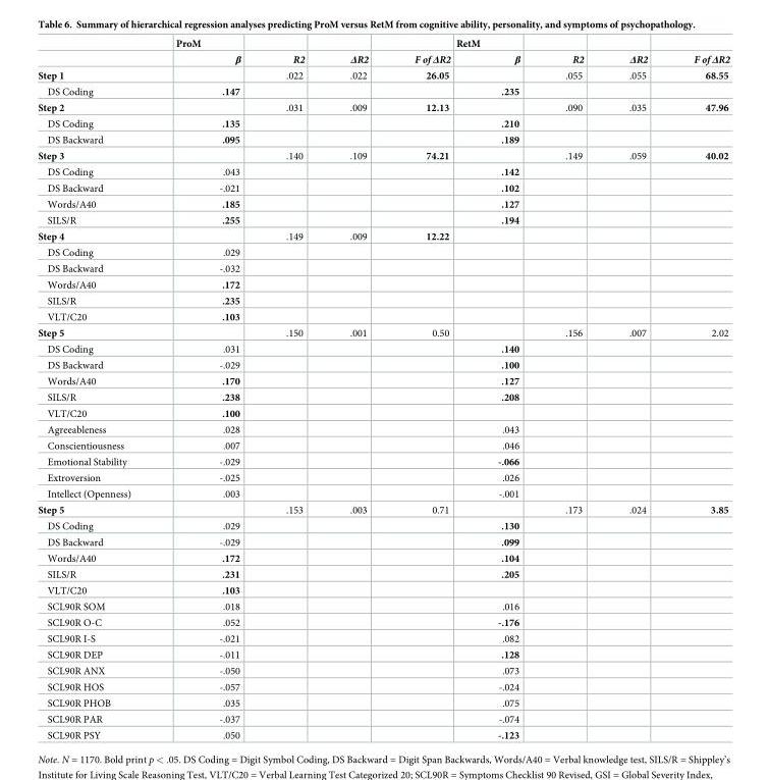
<table><thead><tr><td rowspan="2"></td><td rowspan="2">ProM β</td><td rowspan="2">R2</td><td rowspan="2">ΔR2</td><td rowspan="2">F of ΔR2</td><td rowspan="2">RetM β</td><td rowspan="2">R2</td><td rowspan="2">ΔR2</td><td rowspan="2">F of ΔR2</td></tr><tr></tr></thead><tbody><tr><td>Step 1</td><td></td><td>.022</td><td>.022</td><td>26.05</td><td></td><td>.055</td><td>.055</td><td>68.55</td></tr><tr><td>DS Coding</td><td>.147</td><td></td><td></td><td></td><td>.235</td><td></td><td></td><td></td></tr><tr><td>Step 2</td><td></td><td>.031</td><td>.009</td><td>12.13</td><td></td><td>.090</td><td>.035</td><td>47.96</td></tr><tr><td>DS Coding</td><td>.135</td><td></td><td></td><td></td><td>.210</td><td></td><td></td><td></td></tr><tr><td>DS Backward</td><td>.095</td><td></td><td></td><td></td><td>.189</td><td></td><td></td><td></td></tr><tr><td>Step 3</td><td></td><td>.140</td><td>.109</td><td>74.21</td><td></td><td>.149</td><td>.059</td><td>40.02</td></tr><tr><td>DS Coding</td><td>.043</td><td></td><td></td><td></td><td>.142</td><td></td><td></td><td></td></tr><tr><td>DS Backward</td><td>-.021</td><td></td><td></td><td></td><td>.102</td><td></td><td></td><td></td></tr><tr><td>Words/A40</td><td>.185</td><td></td><td></td><td></td><td>.127</td><td></td><td></td><td></td></tr><tr><td>SILS/R</td><td>.255</td><td></td><td></td><td></td><td>.194</td><td></td><td></td><td></td></tr><tr><td>Step 4</td><td></td><td>.149</td><td>.009</td><td>12.22</td><td></td><td></td><td></td><td></td></tr><tr><td>DS Coding</td><td>.029</td><td></td><td></td><td></td><td></td><td></td><td></td><td></td></tr><tr><td>DS Backward</td><td>-.032</td><td></td><td></td><td></td><td></td><td></td><td></td><td></td></tr><tr><td>Words/A40</td><td>.172</td><td></td><td></td><td></td><td></td><td></td><td></td><td></td></tr><tr><td>SILS/R</td><td>.235</td><td></td><td></td><td></td><td></td><td></td><td></td><td></td></tr><tr><td>VLT/C20</td><td>.103</td><td></td><td></td><td></td><td></td><td></td><td></td><td></td></tr><tr><td>Step 5</td><td></td><td>.150</td><td>.001</td><td>0.50</td><td></td><td>.156</td><td>.007</td><td>2.02</td></tr><tr><td>DS Coding</td><td>.031</td><td></td><td></td><td></td><td>.140</td><td></td><td></td><td></td></tr><tr><td>DS Backward</td><td>-.029</td><td></td><td></td><td></td><td>.100</td><td></td><td></td><td></td></tr><tr><td>Words/A40</td><td>.170</td><td></td><td></td><td></td><td>.127</td><td></td><td></td><td></td></tr><tr><td>SILS/R</td><td>.238</td><td></td><td></td><td></td><td>.208</td><td></td><td></td><td></td></tr><tr><td>VLT/C20</td><td>.100</td><td></td><td></td><td></td><td></td><td></td><td></td><td></td></tr><tr><td>Agreeableness</td><td>.028</td><td></td><td></td><td></td><td>.043</td><td></td><td></td><td></td></tr><tr><td>Conscientiousness</td><td>.007</td><td></td><td></td><td></td><td>.046</td><td></td><td></td><td></td></tr><tr><td>Emotional Stability</td><td>-.029</td><td></td><td></td><td></td><td>-.066</td><td></td><td></td><td></td></tr><tr><td>Extroversion</td><td>-.025</td><td></td><td></td><td></td><td>.026</td><td></td><td></td><td></td></tr><tr><td>Intellect (Openness)</td><td>.003</td><td></td><td></td><td></td><td>-.001</td><td></td><td></td><td></td></tr><tr><td>Step 5</td><td></td><td>.153</td><td>.003</td><td>0.71</td><td></td><td>.173</td><td>.024</td><td>3.85</td></tr><tr><td>DS Coding</td><td>.029</td><td></td><td></td><td></td><td>.130</td><td></td><td></td><td></td></tr><tr><td>DS Backward</td><td>-.029</td><td></td><td></td><td></td><td>.099</td><td></td><td></td><td></td></tr><tr><td>Words/A40</td><td>.172</td><td></td><td></td><td></td><td>.104</td><td></td><td></td><td></td></tr><tr><td>SILS/R</td><td>.231</td><td></td><td></td><td></td><td>.205</td><td></td><td></td><td></td></tr><tr><td>VLT/C20</td><td>.103</td><td></td><td></td><td></td><td></td><td></td><td></td><td></td></tr><tr><td>SCL90R SOM</td><td>.018</td><td></td><td></td><td></td><td>.016</td><td></td><td></td><td></td></tr><tr><td>SCL90R O-C</td><td>.052</td><td></td><td></td><td></td><td>-.176</td><td></td><td></td><td></td></tr><tr><td>SCL90R I-S</td><td>-.021</td><td></td><td></td><td></td><td>.082</td><td></td><td></td><td></td></tr><tr><td>SCL90R DEP</td><td>-.011</td><td></td><td></td><td></td><td>.128</td><td></td><td></td><td></td></tr><tr><td>SCL90R ANX</td><td>-.050</td><td></td><td></td><td></td><td>.073</td><td></td><td></td><td></td></tr><tr><td>SCL90R HOS</td><td>-.057</td><td></td><td></td><td></td><td>-.024</td><td></td><td></td><td></td></tr><tr><td>SCL90R PHOB</td><td>.035</td><td></td><td></td><td></td><td>.075</td><td></td><td></td><td></td></tr><tr><td>SCL90R PAR</td><td>-.037</td><td></td><td></td><td></td><td>-.074</td><td></td><td></td><td></td></tr><tr><td>SCL90R PSY</td><td>.050</td><td></td><td></td><td></td><td>-.123</td><td></td><td></td><td></td></tr></tbody></table>